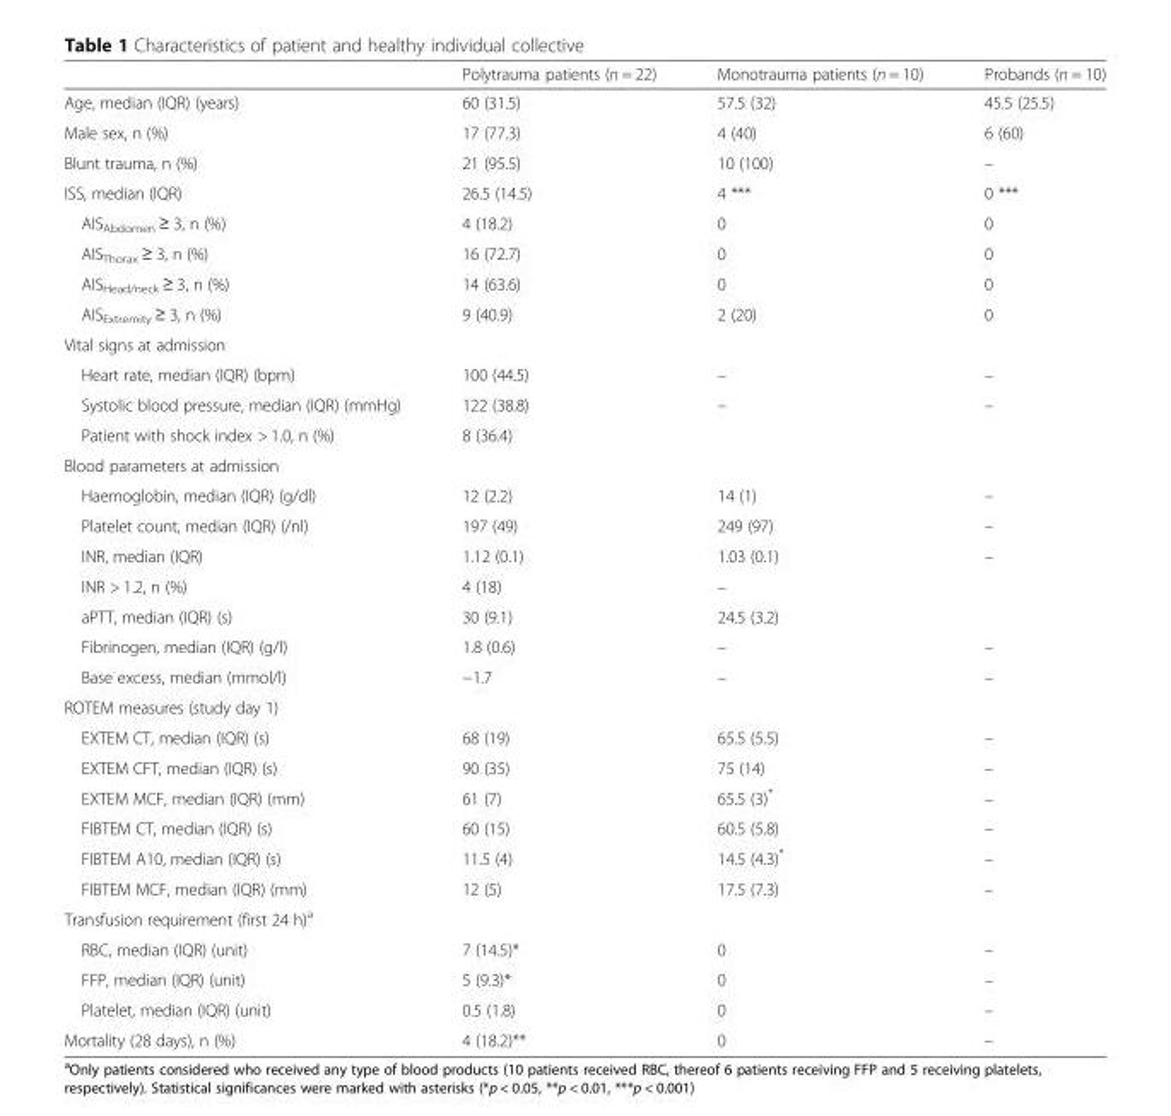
<table><thead><tr><td></td><td>Polytrauma patients (n = 22)</td><td>Monotrauma patients (n = 10)</td><td>Probands (n = 10)</td></tr></thead><tbody><tr><td>Age, median (IQR) (years)</td><td>60 (31.5)</td><td>57.5 (32)</td><td>45.5 (25.5)</td></tr><tr><td>Male sex, n (%)</td><td>17 (77.3)</td><td>4 (40)</td><td>6 (60)</td></tr><tr><td>Blunt trauma, n (%)</td><td>21 (95.5)</td><td>10 (100)</td><td>–</td></tr><tr><td>ISS, median (IQR)</td><td>26.5 (14.5)</td><td>4 ***</td><td>0 ***</td></tr><tr><td>AIS<sub>Abdomen</sub> ≥ 3, n (%)</td><td>4 (18.2)</td><td>0</td><td>0</td></tr><tr><td>AIS<sub>Thorax</sub> ≥ 3, n (%)</td><td>16 (72.7)</td><td>0</td><td>0</td></tr><tr><td>AIS<sub>Head/neck</sub> ≥ 3, n (%)</td><td>14 (63.6)</td><td>0</td><td>0</td></tr><tr><td>AIS<sub>Extremity</sub> ≥ 3, n (%)</td><td>9 (40.9)</td><td>2 (20)</td><td>0</td></tr><tr><td colspan="4">Vital signs at admission</td></tr><tr><td>Heart rate, median (IQR) (bpm)</td><td>100 (44.5)</td><td>–</td><td>–</td></tr><tr><td>Systolic blood pressure, median (IQR) (mmHg)</td><td>122 (38.8)</td><td>–</td><td>–</td></tr><tr><td>Patient with shock index &gt; 1.0, n (%)</td><td>8 (36.4)</td><td></td><td></td></tr><tr><td colspan="4">Blood parameters at admission</td></tr><tr><td>Haemoglobin, median (IQR) (g/dl)</td><td>12 (2.2)</td><td>14 (1)</td><td>–</td></tr><tr><td>Platelet count, median (IQR) (/nl)</td><td>197 (49)</td><td>249 (97)</td><td>–</td></tr><tr><td>INR, median (IQR)</td><td>1.12 (0.1)</td><td>1.03 (0.1)</td><td>–</td></tr><tr><td>INR &gt; 1.2, n (%)</td><td>4 (18)</td><td>–</td><td></td></tr><tr><td>aPTT, median (IQR) (s)</td><td>30 (9.1)</td><td>24.5 (3.2)</td><td></td></tr><tr><td>Fibrinogen, median (IQR) (g/l)</td><td>1.8 (0.6)</td><td>–</td><td>–</td></tr><tr><td>Base excess, median (mmol/l)</td><td>−1.7</td><td>–</td><td>–</td></tr><tr><td colspan="4">ROTEM measures (study day 1)</td></tr><tr><td>EXTEM CT, median (IQR) (s)</td><td>68 (19)</td><td>65.5 (5.5)</td><td>–</td></tr><tr><td>EXTEM CFT, median (IQR) (s)</td><td>90 (35)</td><td>75 (14)</td><td>–</td></tr><tr><td>EXTEM MCF, median (IQR) (mm)</td><td>61 (7)</td><td>65.5 (3)*</td><td>–</td></tr><tr><td>FIBTEM CT, median (IQR) (s)</td><td>60 (15)</td><td>60.5 (5.8)</td><td>–</td></tr><tr><td>FIBTEM A10, median (IQR) (s)</td><td>11.5 (4)</td><td>14.5 (4.3)*</td><td>–</td></tr><tr><td>FIBTEM MCF, median (IQR) (mm)</td><td>12 (5)</td><td>17.5 (7.3)</td><td>–</td></tr><tr><td colspan="4">Transfusion requirement (first 24 h)<sup>a</sup></td></tr><tr><td>RBC, median (IQR) (unit)</td><td>7 (14.5)*</td><td>0</td><td>–</td></tr><tr><td>FFP, median (IQR) (unit)</td><td>5 (9.3)*</td><td>0</td><td>–</td></tr><tr><td>Platelet, median (IQR) (unit)</td><td>0.5 (1.8)</td><td>0</td><td>–</td></tr><tr><td>Mortality (28 days), n (%)</td><td>4 (18.2)**</td><td>0</td><td>–</td></tr></tbody></table>